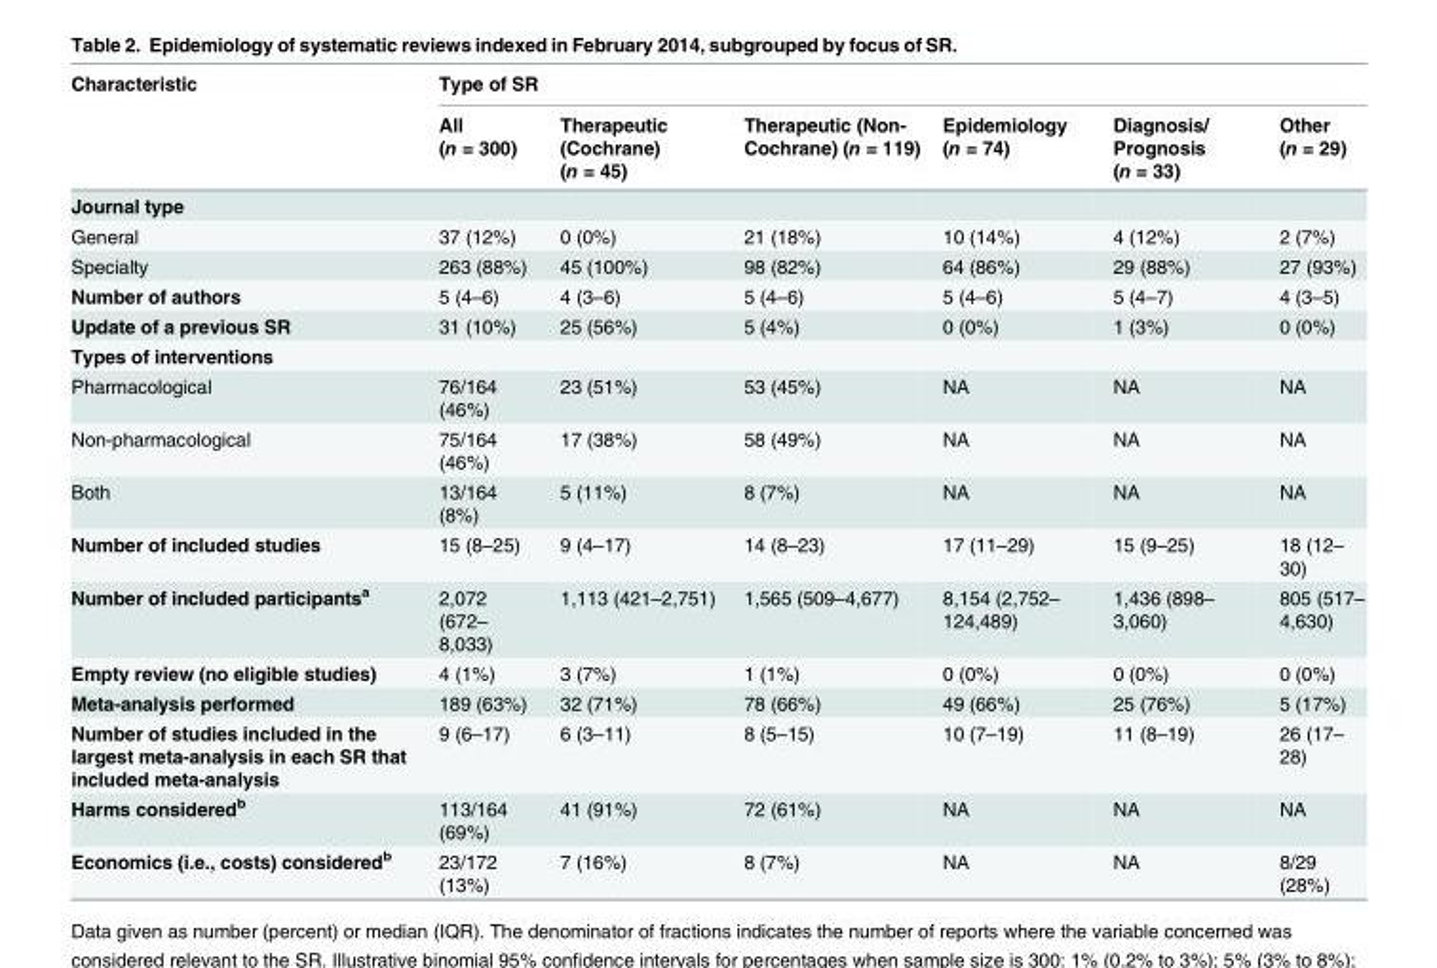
<table><thead><tr><td rowspan="2">Characteristic</td><td colspan="6">Type of SR</td></tr><tr><td>All (n = 300)</td><td>Therapeutic (Cochrane) (n = 45)</td><td>Therapeutic (Non- Cochrane) (n = 119)</td><td>Epidemiology (n = 74)</td><td>Diagnosis/ Prognosis (n = 33)</td><td>Other (n = 29)</td></tr></thead><tbody><tr><td colspan="7">Journal type</td></tr><tr><td>General</td><td>37 (12%)</td><td>0 (0%)</td><td>21 (18%)</td><td>10 (14%)</td><td>4 (12%)</td><td>2 (7%)</td></tr><tr><td>Specialty</td><td>263 (88%)</td><td>45 (100%)</td><td>98 (82%)</td><td>64 (86%)</td><td>29 (88%)</td><td>27 (93%)</td></tr><tr><td>Number of authors</td><td>5 (4–6)</td><td>4 (3–6)</td><td>5 (4–6)</td><td>5 (4–6)</td><td>5 (4–7)</td><td>4 (3–5)</td></tr><tr><td>Update of a previous SR</td><td>31 (10%)</td><td>25 (56%)</td><td>5 (4%)</td><td>0 (0%)</td><td>1 (3%)</td><td>0 (0%)</td></tr><tr><td colspan="7">Types of interventions</td></tr><tr><td>Pharmacological</td><td>76/164 (46%)</td><td>23 (51%)</td><td>53 (45%)</td><td>NA</td><td>NA</td><td>NA</td></tr><tr><td>Non-pharmacological</td><td>75/164 (46%)</td><td>17 (38%)</td><td>58 (49%)</td><td>NA</td><td>NA</td><td>NA</td></tr><tr><td>Both</td><td>13/164 (8%)</td><td>5 (11%)</td><td>8 (7%)</td><td>NA</td><td>NA</td><td>NA</td></tr><tr><td>Number of included studies</td><td>15 (8–25)</td><td>9 (4–17)</td><td>14 (8–23)</td><td>17 (11–29)</td><td>15 (9–25)</td><td>18 (12– 30)</td></tr><tr><td>Number of included participants<sup>a</sup></td><td>2,072 (672– 8,033)</td><td>1,113 (421–2,751)</td><td>1,565 (509–4,677)</td><td>8,154 (2,752– 124,489)</td><td>1,436 (898– 3,060)</td><td>805 (517– 4,630)</td></tr><tr><td>Empty review (no eligible studies)</td><td>4 (1%)</td><td>3 (7%)</td><td>1 (1%)</td><td>0 (0%)</td><td>0 (0%)</td><td>0 (0%)</td></tr><tr><td>Meta-analysis performed</td><td>189 (63%)</td><td>32 (71%)</td><td>78 (66%)</td><td>49 (66%)</td><td>25 (76%)</td><td>5 (17%)</td></tr><tr><td>Number of studies included in the largest meta-analysis in each SR that included meta-analysis</td><td>9 (6–17)</td><td>6 (3–11)</td><td>8 (5–15)</td><td>10 (7–19)</td><td>11 (8–19)</td><td>26 (17– 28)</td></tr><tr><td>Harms considered<sup>b</sup></td><td>113/164 (69%)</td><td>41 (91%)</td><td>72 (61%)</td><td>NA</td><td>NA</td><td>NA</td></tr><tr><td>Economics (i.e., costs) considered<sup>b</sup></td><td>23/172 (13%)</td><td>7 (16%)</td><td>8 (7%)</td><td>NA</td><td>NA</td><td>8/29 (28%)</td></tr></tbody></table>